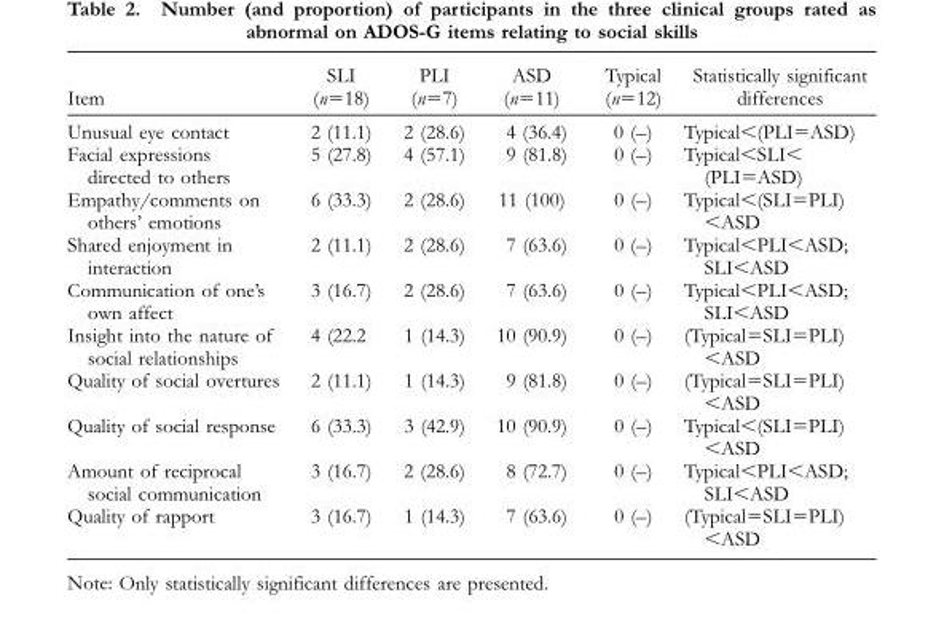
<table><thead><tr><td>Item</td><td>SLI (n=18)</td><td>PLI (n=7)</td><td>ASD (n=11)</td><td>Typical (n=12)</td><td>Statistically significant differences</td></tr></thead><tbody><tr><td>Unusual eye contact</td><td>2 (11.1)</td><td>2 (28.6)</td><td>4 (36.4)</td><td>0 (–)</td><td>Typical&lt;(PLI=ASD)</td></tr><tr><td>Facial expressions directed to others</td><td>5 (27.8)</td><td>4 (57.1)</td><td>9 (81.8)</td><td>0 (–)</td><td>Typical&lt;SLI&lt; (PLI=ASD)</td></tr><tr><td>Empathy/comments on others’ emotions</td><td>6 (33.3)</td><td>2 (28.6)</td><td>11 (100)</td><td>0 (–)</td><td>Typical&lt;(SLI=PLI) &lt;ASD</td></tr><tr><td>Shared enjoyment in interaction</td><td>2 (11.1)</td><td>2 (28.6)</td><td>7 (63.6)</td><td>0 (–)</td><td>Typical&lt;PLI&lt;ASD; SLI&lt;ASD</td></tr><tr><td>Communication of one’s own affect</td><td>3 (16.7)</td><td>2 (28.6)</td><td>7 (63.6)</td><td>0 (–)</td><td>Typical&lt;PLI&lt;ASD; SLI&lt;ASD</td></tr><tr><td>Insight into the nature of social relationships</td><td>4 (22.2</td><td>1 (14.3)</td><td>10 (90.9)</td><td>0 (–)</td><td>(Typical=SLI=PLI) &lt;ASD</td></tr><tr><td>Quality of social overtures</td><td>2 (11.1)</td><td>1 (14.3)</td><td>9 (81.8)</td><td>0 (–)</td><td>(Typical=SLI=PLI) &lt;ASD</td></tr><tr><td>Quality of social response</td><td>6 (33.3)</td><td>3 (42.9)</td><td>10 (90.9)</td><td>0 (–)</td><td>Typical&lt;(SLI=PLI) &lt;ASD</td></tr><tr><td>Amount of reciprocal social communication</td><td>3 (16.7)</td><td>2 (28.6)</td><td>8 (72.7)</td><td>0 (–)</td><td>Typical&lt;PLI&lt;ASD; SLI&lt;ASD</td></tr><tr><td>Quality of rapport</td><td>3 (16.7)</td><td>1 (14.3)</td><td>7 (63.6)</td><td>0 (–)</td><td>(Typical=SLI=PLI) &lt;ASD</td></tr></tbody></table>